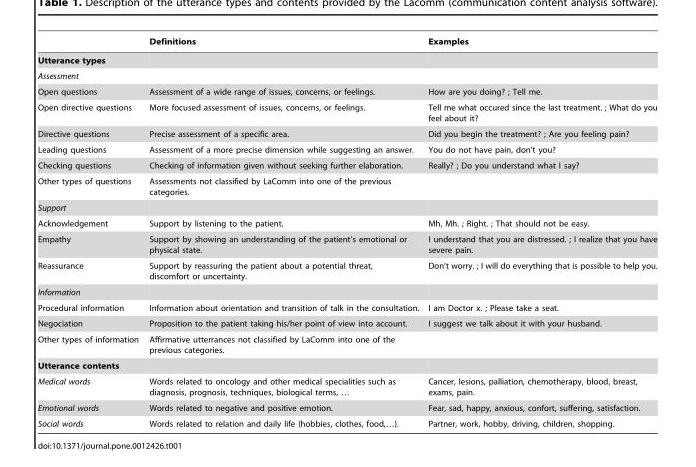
<table><thead><tr><td></td><td>Definitions</td><td>Examples</td></tr></thead><tbody><tr><td colspan="3">Utterance types</td></tr><tr><td colspan="3">Assessment</td></tr><tr><td>Open questions</td><td>Assessment of a wide range of issues, concerns, or feelings.</td><td>How are you doing? ; Tell me.</td></tr><tr><td>Open directive questions</td><td>More focused assessment of issues, concerns, or feelings.</td><td>Tell me what occured since the last treatment. ; What do you feel about it?</td></tr><tr><td>Directive questions</td><td>Precise assessment of a specific area.</td><td>Did you begin the treatment? ; Are you feeling pain?</td></tr><tr><td>Leading questions</td><td>Assessment of a more precise dimension while suggesting an answer.</td><td>You do not have pain, don’t you?</td></tr><tr><td>Checking questions</td><td>Checking of information given without seeking further elaboration.</td><td>Really? ; Do you understand what I say?</td></tr><tr><td>Other types of questions</td><td>Assessments not classified by LaComm into one of the previous categories.</td><td></td></tr><tr><td colspan="3">Support</td></tr><tr><td>Acknowledgement</td><td>Support by listening to the patient.</td><td>Mh, Mh. ; Right. ; That should not be easy.</td></tr><tr><td>Empathy</td><td>Support by showing an understanding of the patient’s emotional or physical state.</td><td>I understand that you are distressed. ; I realize that you have severe pain.</td></tr><tr><td>Reassurance</td><td>Support by reassuring the patient about a potential threat, discomfort or uncertainty.</td><td>Don’t worry. ; I will do everything that is possible to help you.</td></tr><tr><td colspan="3">Information</td></tr><tr><td>Procedural information</td><td>Information about orientation and transition of talk in the consultation.</td><td>I am Doctor x. ; Please take a seat.</td></tr><tr><td>Negociation</td><td>Proposition to the patient taking his/her point of view into account.</td><td>I suggest we talk about it with your husband.</td></tr><tr><td>Other types of information</td><td>Affirmative utterrances not classified by LaComm into one of the previous categories.</td><td></td></tr><tr><td colspan="3">Utterance contents</td></tr><tr><td>Medical words</td><td>Words related to oncology and other medical specialities such as diagnosis, prognosis, techniques, biological terms, …</td><td>Cancer, lesions, palliation, chemotherapy, blood, breast, exams, pain.</td></tr><tr><td>Emotional words</td><td>Words related to negative and positive emotion.</td><td>Fear, sad, happy, anxious, confort, suffering, satisfaction.</td></tr><tr><td>Social words</td><td>Words related to relation and daily life (hobbies, clothes, food,…).</td><td>Partner, work, hobby, driving, children, shopping.</td></tr></tbody></table>